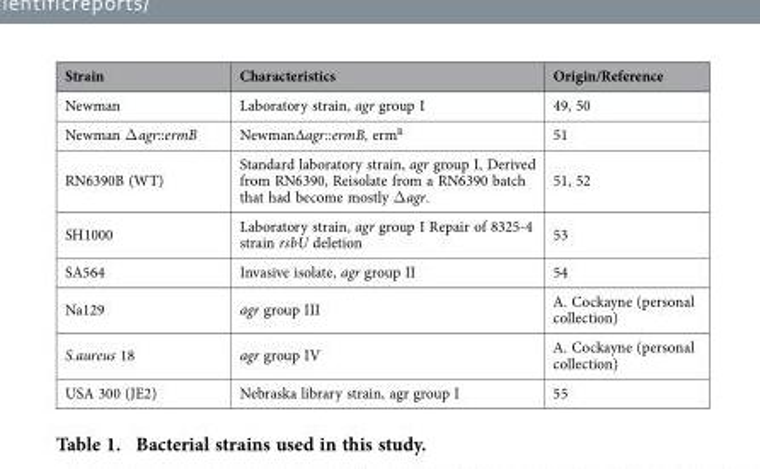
<table><thead><tr><td>Strain</td><td>Characteristics</td><td>Origin/Reference</td></tr></thead><tbody><tr><td>Newman</td><td>Laboratory strain, agr group I</td><td>49, 50</td></tr><tr><td>Newman Δ agr::ermB</td><td>Newman∆agr::ermB, erm<sup>R</sup></td><td>51</td></tr><tr><td>RN6390B (WT)</td><td>Standard laboratory strain, agr group I, Derived from RN6390, Reisolate from a RN6390 batch that had become mostly Δ agr.</td><td>51, 52</td></tr><tr><td>SH1000</td><td>Laboratory strain, agr group I Repair of 8325-4 strain rsbU deletion</td><td>53</td></tr><tr><td>SA564</td><td>Invasive isolate, agr group II</td><td>54</td></tr><tr><td>Na129</td><td>agr group III</td><td>A. Cockayne (personal collection)</td></tr><tr><td>S.aureus 18</td><td>agr group IV</td><td>A. Cockayne (personal collection)</td></tr><tr><td>USA 300 (JE2)</td><td>Nebraska library strain, agr group I</td><td>55</td></tr></tbody></table>